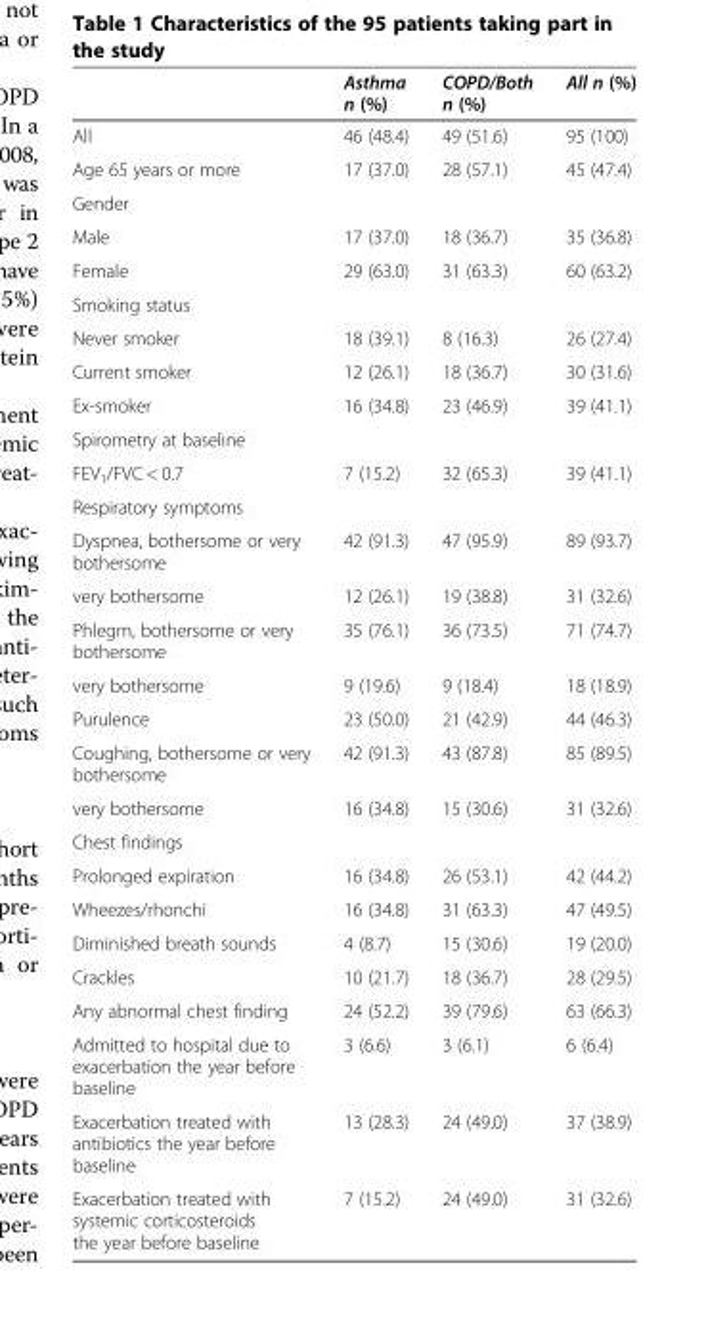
<table><thead><tr><td></td><td>Asthma n (%)</td><td>COPD/Both n (%)</td><td>All n (%)</td></tr></thead><tbody><tr><td>All</td><td>46 (48.4)</td><td>49 (51.6)</td><td>95 (100)</td></tr><tr><td>Age 65 years or more</td><td>17 (37.0)</td><td>28 (57.1)</td><td>45 (47.4)</td></tr><tr><td colspan="4">Gender</td></tr><tr><td>Male</td><td>17 (37.0)</td><td>18 (36.7)</td><td>35 (36.8)</td></tr><tr><td>Female</td><td>29 (63.0)</td><td>31 (63.3)</td><td>60 (63.2)</td></tr><tr><td colspan="4">Smoking status</td></tr><tr><td>Never smoker</td><td>18 (39.1)</td><td>8 (16.3)</td><td>26 (27.4)</td></tr><tr><td>Current smoker</td><td>12 (26.1)</td><td>18 (36.7)</td><td>30 (31.6)</td></tr><tr><td>Ex-smoker</td><td>16 (34.8)</td><td>23 (46.9)</td><td>39 (41.1)</td></tr><tr><td colspan="4">Spirometry at baseline</td></tr><tr><td>FEV<sub>1</sub>/FVC &lt; 0.7</td><td>7 (15.2)</td><td>32 (65.3)</td><td>39 (41.1)</td></tr><tr><td colspan="4">Respiratory symptoms</td></tr><tr><td>Dyspnea, bothersome or very bothersome</td><td>42 (91.3)</td><td>47 (95.9)</td><td>89 (93.7)</td></tr><tr><td>very bothersome</td><td>12 (26.1)</td><td>19 (38.8)</td><td>31 (32.6)</td></tr><tr><td>Phlegm, bothersome or very bothersome</td><td>35 (76.1)</td><td>36 (73.5)</td><td>71 (74.7)</td></tr><tr><td>very bothersome</td><td>9 (19.6)</td><td>9 (18.4)</td><td>18 (18.9)</td></tr><tr><td>Purulence</td><td>23 (50.0)</td><td>21 (42.9)</td><td>44 (46.3)</td></tr><tr><td>Coughing, bothersome or very bothersome</td><td>42 (91.3)</td><td>43 (87.8)</td><td>85 (89.5)</td></tr><tr><td>very bothersome</td><td>16 (34.8)</td><td>15 (30.6)</td><td>31 (32.6)</td></tr><tr><td colspan="4">Chest findings</td></tr><tr><td>Prolonged expiration</td><td>16 (34.8)</td><td>26 (53.1)</td><td>42 (44.2)</td></tr><tr><td>Wheezes/rhonchi</td><td>16 (34.8)</td><td>31 (63.3)</td><td>47 (49.5)</td></tr><tr><td>Diminished breath sounds</td><td>4 (8.7)</td><td>15 (30.6)</td><td>19 (20.0)</td></tr><tr><td>Crackles</td><td>10 (21.7)</td><td>18 (36.7)</td><td>28 (29.5)</td></tr><tr><td>Any abnormal chest finding</td><td>24 (52.2)</td><td>39 (79.6)</td><td>63 (66.3)</td></tr><tr><td>Admitted to hospital due to exacerbation the year before baseline</td><td>3 (6.6)</td><td>3 (6.1)</td><td>6 (6.4)</td></tr><tr><td>Exacerbation treated with antibiotics the year before baseline</td><td>13 (28.3)</td><td>24 (49.0)</td><td>37 (38.9)</td></tr><tr><td>Exacerbation treated with systemic corticosteroids the year before baseline</td><td>7 (15.2)</td><td>24 (49.0)</td><td>31 (32.6)</td></tr></tbody></table>